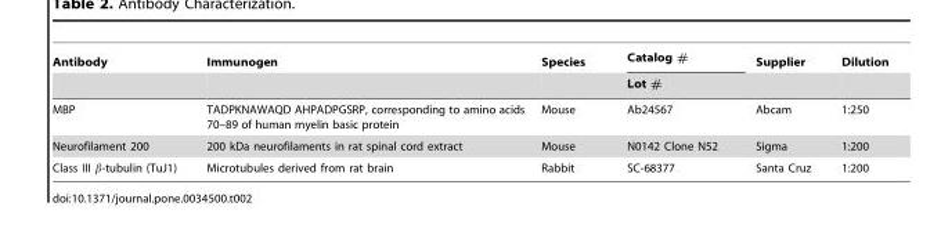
<table><thead><tr><td rowspan="2">Antibody</td><td rowspan="2">Immunogen</td><td rowspan="2">Species</td><td rowspan="2">Catalog # Lot #</td><td rowspan="2">Supplier</td><td rowspan="2">Dilution</td></tr><tr></tr></thead><tbody><tr><td>MBP</td><td>TADPKNAWAQD AHPADPGSRP, corresponding to amino acids 70–89 of human myelin basic protein</td><td>Mouse</td><td>Ab24567</td><td>Abcam</td><td>1:250</td></tr><tr><td>Neurofilament 200</td><td>200 kDa neurofilaments in rat spinal cord extract</td><td>Mouse</td><td>N0142 Clone N52</td><td>Sigma</td><td>1:200</td></tr><tr><td>Class III β-tubulin (TuJ1)</td><td>Microtubules derived from rat brain</td><td>Rabbit</td><td>SC-68377</td><td>Santa Cruz</td><td>1:200</td></tr></tbody></table>